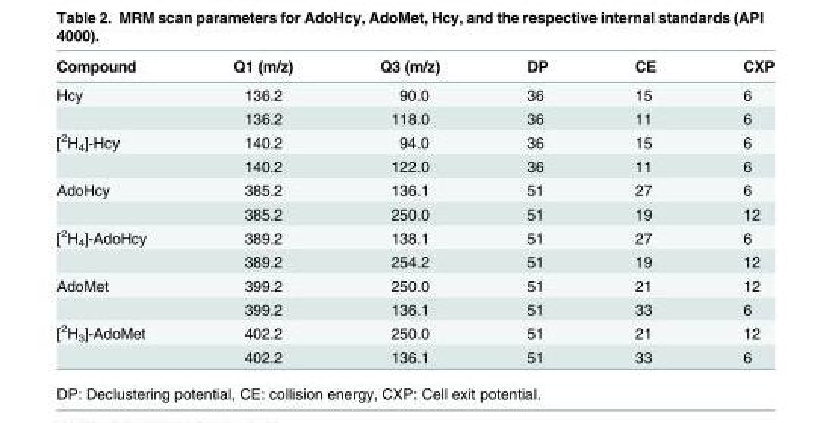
<table><thead><tr><td>Compound</td><td>Q1 (m/z)</td><td>Q3 (m/z)</td><td>DP</td><td>CE</td><td>CXP</td></tr></thead><tbody><tr><td rowspan="2">Hcy</td><td>136.2</td><td>90.0</td><td>36</td><td>15</td><td>6</td></tr><tr><td>136.2</td><td>118.0</td><td>36</td><td>11</td><td>6</td></tr><tr><td rowspan="2">[<sup>2</sup>H<sub>4</sub>]-Hcy</td><td>140.2</td><td>94.0</td><td>36</td><td>15</td><td>6</td></tr><tr><td>140.2</td><td>122.0</td><td>36</td><td>11</td><td>6</td></tr><tr><td rowspan="2">AdoHcy</td><td>385.2</td><td>136.1</td><td>51</td><td>27</td><td>6</td></tr><tr><td>385.2</td><td>250.0</td><td>51</td><td>19</td><td>12</td></tr><tr><td rowspan="2">[<sup>2</sup>H<sub>4</sub>]-AdoHcy</td><td>389.2</td><td>138.1</td><td>51</td><td>27</td><td>6</td></tr><tr><td>389.2</td><td>254.2</td><td>51</td><td>19</td><td>12</td></tr><tr><td rowspan="2">AdoMet</td><td>399.2</td><td>250.0</td><td>51</td><td>21</td><td>12</td></tr><tr><td>399.2</td><td>136.1</td><td>51</td><td>33</td><td>6</td></tr><tr><td rowspan="2">[<sup>2</sup>H<sub>3</sub>]-AdoMet</td><td>402.2</td><td>250.0</td><td>51</td><td>21</td><td>12</td></tr><tr><td>402.2</td><td>136.1</td><td>51</td><td>33</td><td>6</td></tr></tbody></table>